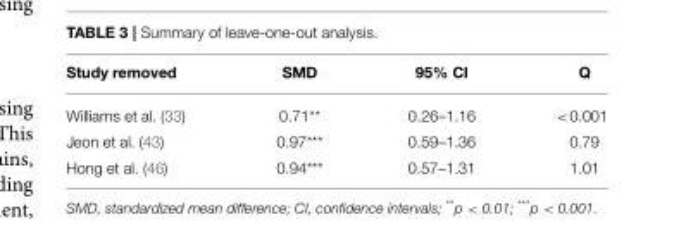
<table><thead><tr><td>Study removed</td><td>SMD</td><td>95% CI</td><td>Q</td></tr></thead><tbody><tr><td>Williams et al. (33)</td><td>0.71**</td><td>0.26–1.16</td><td>&lt;0.001</td></tr><tr><td>Jeon et al. (43)</td><td>0.97***</td><td>0.59–1.36</td><td>0.79</td></tr><tr><td>Hong et al. (46)</td><td>0.94***</td><td>0.57–1.31</td><td>1.01</td></tr></tbody></table>